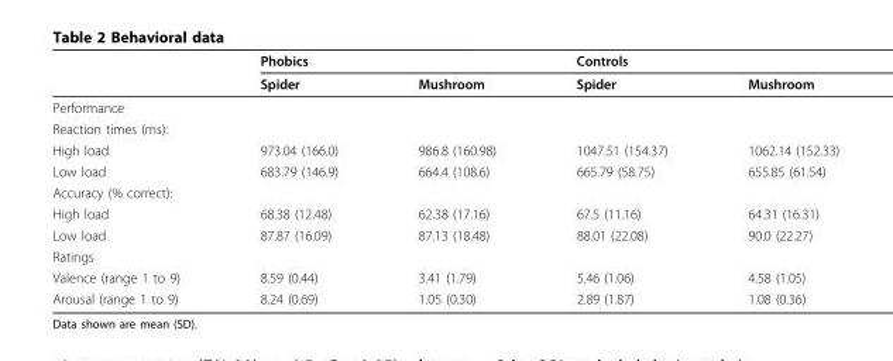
<table><thead><tr><td rowspan="2"></td><td rowspan="2">Phobics Spider</td><td rowspan="2">Mushroom</td><td rowspan="2">Controls Spider</td><td rowspan="2">Mushroom</td></tr><tr></tr></thead><tbody><tr><td colspan="5">Performance</td></tr><tr><td colspan="5">Reaction times (ms):</td></tr><tr><td>High load</td><td>973.04 (166.0)</td><td>986.8 (160.98)</td><td>1047.51 (154.37)</td><td>1062.14 (152.33)</td></tr><tr><td>Low load</td><td>683.79 (146.9)</td><td>664.4 (108.6)</td><td>665.79 (58.75)</td><td>655.85 (61.54)</td></tr><tr><td colspan="5">Accuracy (% correct):</td></tr><tr><td>High load</td><td>68.38 (12.48)</td><td>62.38 (17.16)</td><td>67.5 (11.16)</td><td>64.31 (16.31)</td></tr><tr><td>Low load</td><td>87.87 (16.09)</td><td>87.13 (18.48)</td><td>88.01 (22.08)</td><td>90.0 (22.27)</td></tr><tr><td colspan="5">Ratings</td></tr><tr><td>Valence (range 1 to 9)</td><td>8.59 (0.44)</td><td>3.41 (1.79)</td><td>5.46 (1.06)</td><td>4.58 (1.05)</td></tr><tr><td>Arousal (range 1 to 9)</td><td>8.24 (0.69)</td><td>1.05 (0.30)</td><td>2.89 (1.87)</td><td>1.08 (0.36)</td></tr></tbody></table>